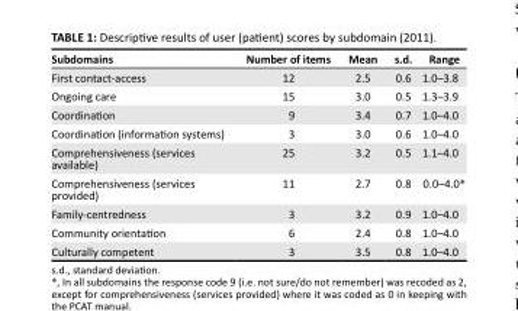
<table><thead><tr><td>Subdomains</td><td>Number of items</td><td>Mean</td><td>s.d.</td><td>Range</td></tr></thead><tbody><tr><td>First contact-access</td><td>12</td><td>2.5</td><td>0.6</td><td>1.0–3.8</td></tr><tr><td>Ongoing care</td><td>15</td><td>3.0</td><td>0.5</td><td>1.3–3.9</td></tr><tr><td>Coordination</td><td>9</td><td>3.4</td><td>0.7</td><td>1.0–4.0</td></tr><tr><td>Coordination (information systems)</td><td>3</td><td>3.0</td><td>0.6</td><td>1.0–4.0</td></tr><tr><td>Comprehensiveness (services available)</td><td>25</td><td>3.2</td><td>0.5</td><td>1.1–4.0</td></tr><tr><td>Comprehensiveness (services provided)</td><td>11</td><td>2.7</td><td>0.8</td><td>0.0–4.0*</td></tr><tr><td>Family-centredness</td><td>3</td><td>3.2</td><td>0.9</td><td>1.0–4.0</td></tr><tr><td>Community orientation</td><td>6</td><td>2.4</td><td>0.8</td><td>1.0–4.0</td></tr><tr><td>Culturally competent</td><td>3</td><td>3.5</td><td>0.8</td><td>1.0–4.0</td></tr></tbody></table>